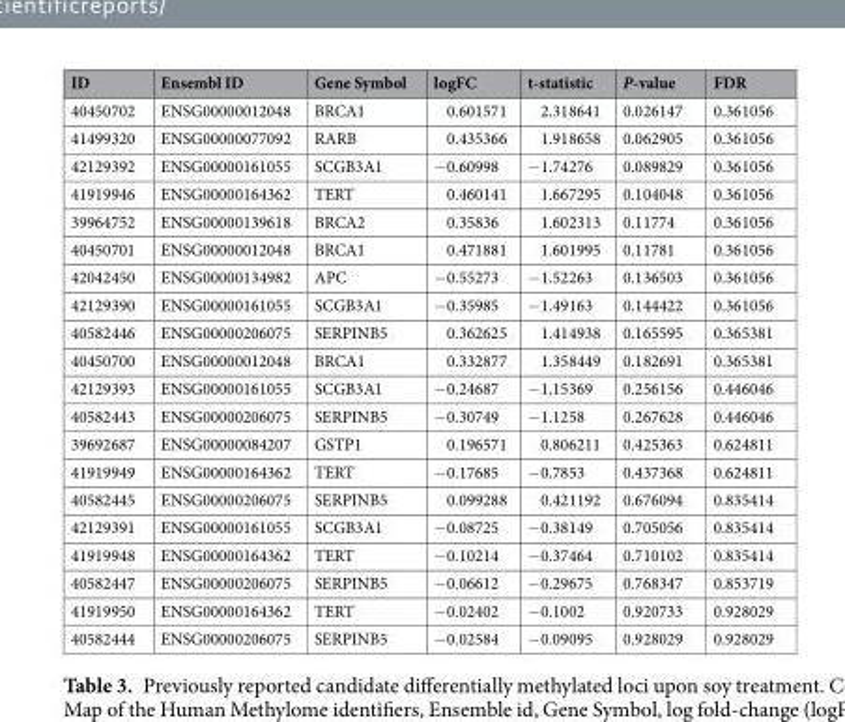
<table><thead><tr><td>ID</td><td>Ensembl ID</td><td>Gene Symbol</td><td>logFC</td><td>t-statistic</td><td>P-value</td><td>FDR</td></tr></thead><tbody><tr><td>40450702</td><td>ENSG00000012048</td><td>BRCA1</td><td>0.601571</td><td>2.318641</td><td>0.026147</td><td>0.361056</td></tr><tr><td>41499320</td><td>ENSG00000077092</td><td>RARB</td><td>0.435366</td><td>1.918658</td><td>0.062905</td><td>0.361056</td></tr><tr><td>42129392</td><td>ENSG00000161055</td><td>SCGB3A1</td><td>−0.60998</td><td>−1.74276</td><td>0.089829</td><td>0.361056</td></tr><tr><td>41919946</td><td>ENSG00000164362</td><td>TERT</td><td>0.460141</td><td>1.667295</td><td>0.104048</td><td>0.361056</td></tr><tr><td>39964752</td><td>ENSG00000139618</td><td>BRCA2</td><td>0.35836</td><td>1.602313</td><td>0.11774</td><td>0.361056</td></tr><tr><td>40450701</td><td>ENSG00000012048</td><td>BRCA1</td><td>0.471881</td><td>1.601995</td><td>0.11781</td><td>0.361056</td></tr><tr><td>42042450</td><td>ENSG00000134982</td><td>APC</td><td>−0.55273</td><td>−1.52263</td><td>0.136503</td><td>0.361056</td></tr><tr><td>42129390</td><td>ENSG00000161055</td><td>SCGB3A1</td><td>−0.35985</td><td>−1.49163</td><td>0.144422</td><td>0.361056</td></tr><tr><td>40582446</td><td>ENSG00000206075</td><td>SERPINB5</td><td>0.362625</td><td>1.414938</td><td>0.165595</td><td>0.365381</td></tr><tr><td>40450700</td><td>ENSG00000012048</td><td>BRCA1</td><td>0.332877</td><td>1.358449</td><td>0.182691</td><td>0.365381</td></tr><tr><td>42129393</td><td>ENSG00000161055</td><td>SCGB3A1</td><td>−0.24687</td><td>−1.15369</td><td>0.256156</td><td>0.446046</td></tr><tr><td>40582443</td><td>ENSG00000206075</td><td>SERPINB5</td><td>−0.30749</td><td>−1.1258</td><td>0.267628</td><td>0.446046</td></tr><tr><td>39692687</td><td>ENSG00000084207</td><td>GSTP1</td><td>0.196571</td><td>0.806211</td><td>0.425363</td><td>0.624811</td></tr><tr><td>41919949</td><td>ENSG00000164362</td><td>TERT</td><td>−0.17685</td><td>−0.7853</td><td>0.437368</td><td>0.624811</td></tr><tr><td>40582445</td><td>ENSG00000206075</td><td>SERPINB5</td><td>0.099288</td><td>0.421192</td><td>0.676094</td><td>0.835414</td></tr><tr><td>42129391</td><td>ENSG00000161055</td><td>SCGB3A1</td><td>−0.08725</td><td>−0.38149</td><td>0.705056</td><td>0.835414</td></tr><tr><td>41919948</td><td>ENSG00000164362</td><td>TERT</td><td>−0.10214</td><td>−0.37464</td><td>0.710102</td><td>0.835414</td></tr><tr><td>40582447</td><td>ENSG00000206075</td><td>SERPINB5</td><td>−0.06612</td><td>−0.29675</td><td>0.768347</td><td>0.853719</td></tr><tr><td>41919950</td><td>ENSG00000164362</td><td>TERT</td><td>−0.02402</td><td>−0.1002</td><td>0.920733</td><td>0.928029</td></tr><tr><td>40582444</td><td>ENSG00000206075</td><td>SERPINB5</td><td>−0.02584</td><td>−0.09095</td><td>0.928029</td><td>0.928029</td></tr></tbody></table>